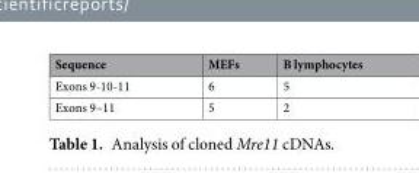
<table><thead><tr><td>Sequence</td><td>MEFs</td><td>B lymphocytes</td></tr></thead><tbody><tr><td>Exons 9-10-11</td><td>6</td><td>5</td></tr><tr><td>Exons 9–11</td><td>5</td><td>2</td></tr></tbody></table>